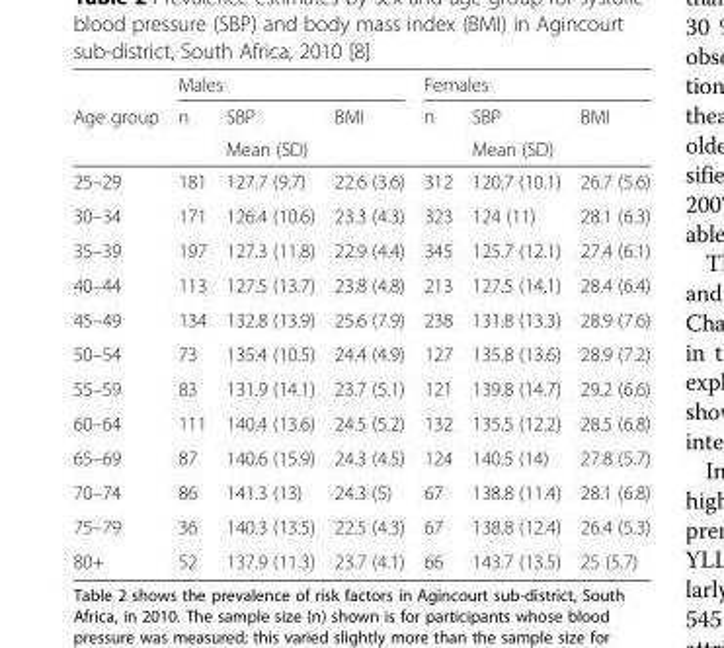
<table><thead><tr><td rowspan="3">Age group</td><td colspan="3">Males</td><td colspan="3">Females</td></tr><tr><td rowspan="2">n</td><td>SBP</td><td>BMI</td><td rowspan="2">n</td><td>SBP</td><td>BMI</td></tr><tr><td colspan="2">Mean (SD)</td><td colspan="2">Mean (SD)</td></tr></thead><tbody><tr><td>25–29</td><td>181</td><td>127.7 (9.7)</td><td>22.6 (3.6)</td><td>312</td><td>120.7 (10.1)</td><td>26.7 (5.6)</td></tr><tr><td>30–34</td><td>171</td><td>126.4 (10.6)</td><td>23.3 (4.3)</td><td>323</td><td>124 (11)</td><td>28.1 (6.3)</td></tr><tr><td>35–39</td><td>197</td><td>127.3 (11.8)</td><td>22.9 (4.4)</td><td>345</td><td>125.7 (12.1)</td><td>27.4 (6.1)</td></tr><tr><td>40–44</td><td>113</td><td>127.5 (13.7)</td><td>23.8 (4.8)</td><td>213</td><td>127.5 (14.1)</td><td>28.4 (6.4)</td></tr><tr><td>45–49</td><td>134</td><td>132.8 (13.9)</td><td>25.6 (7.9)</td><td>238</td><td>131.8 (13.3)</td><td>28.9 (7.6)</td></tr><tr><td>50–54</td><td>73</td><td>135.4 (10.5)</td><td>24.4 (4.9)</td><td>127</td><td>135.8 (13.6)</td><td>28.9 (7.2)</td></tr><tr><td>55–59</td><td>83</td><td>131.9 (14.1)</td><td>23.7 (5.1)</td><td>121</td><td>139.8 (14.7)</td><td>29.2 (6.6)</td></tr><tr><td>60–64</td><td>111</td><td>140.4 (13.6)</td><td>24.5 (5.2)</td><td>132</td><td>135.5 (12.2)</td><td>28.5 (6.8)</td></tr><tr><td>65–69</td><td>87</td><td>140.6 (15.9)</td><td>24.3 (4.5)</td><td>124</td><td>140.5 (14)</td><td>27.8 (5.7)</td></tr><tr><td>70–74</td><td>86</td><td>141.3 (13)</td><td>24.3 (5)</td><td>67</td><td>138.8 (11.4)</td><td>28.1 (6.8)</td></tr><tr><td>75–79</td><td>36</td><td>140.3 (13.5)</td><td>22.5 (4.3)</td><td>67</td><td>138.8 (12.4)</td><td>26.4 (5.3)</td></tr><tr><td>80+</td><td>52</td><td>137.9 (11.3)</td><td>23.7 (4.1)</td><td>66</td><td>143.7 (13.5)</td><td>25 (5.7)</td></tr></tbody></table>